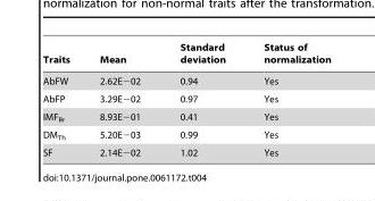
<table><thead><tr><td>Traits</td><td>Mean</td><td>Standard deviation</td><td>Status of normalization</td></tr></thead><tbody><tr><td>AbFW</td><td>2.62E−02</td><td>0.94</td><td>Yes</td></tr><tr><td>AbFP</td><td>3.29E−02</td><td>0.97</td><td>Yes</td></tr><tr><td>IMF<sub>Br</sub></td><td>8.93E−01</td><td>0.41</td><td>Yes</td></tr><tr><td>DM<sub>Th</sub></td><td>5.20E−03</td><td>0.99</td><td>Yes</td></tr><tr><td>SF</td><td>2.14E−02</td><td>1.02</td><td>Yes</td></tr></tbody></table>